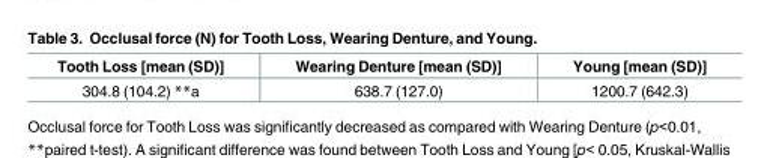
<table><thead><tr><td>Tooth Loss [mean (SD)]</td><td>Wearing Denture [mean (SD)]</td><td>Young [mean (SD)]</td></tr></thead><tbody><tr><td>304.8 (104.2) **a</td><td>638.7 (127.0)</td><td>1200.7 (642.3)</td></tr></tbody></table>